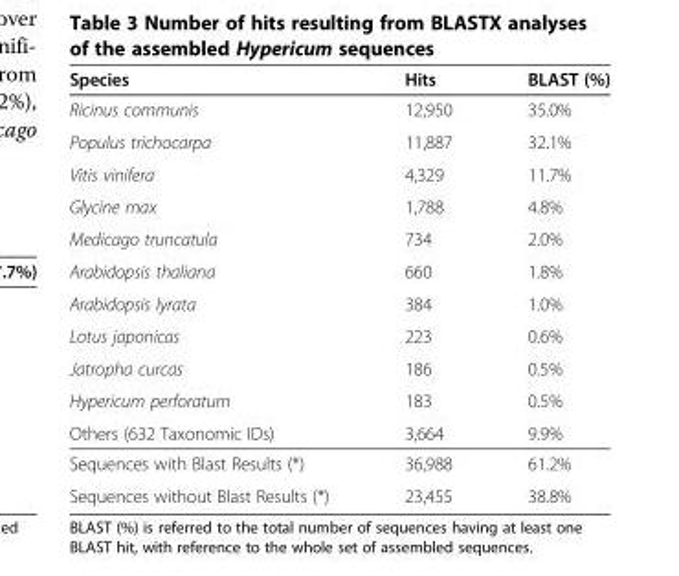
<table><thead><tr><td>Species</td><td>Hits</td><td>BLAST (%)</td></tr></thead><tbody><tr><td>Ricinus communis</td><td>12,950</td><td>35.0%</td></tr><tr><td>Populus trichocarpa</td><td>11,887</td><td>32.1%</td></tr><tr><td>Vitis vinifera</td><td>4,329</td><td>11.7%</td></tr><tr><td>Glycine max</td><td>1,788</td><td>4.8%</td></tr><tr><td>Medicago truncatula</td><td>734</td><td>2.0%</td></tr><tr><td>Arabidopsis thaliana</td><td>660</td><td>1.8%</td></tr><tr><td>Arabidopsis lyrata</td><td>384</td><td>1.0%</td></tr><tr><td>Lotus japonicas</td><td>223</td><td>0.6%</td></tr><tr><td>Jatropha curcas</td><td>186</td><td>0.5%</td></tr><tr><td>Hypericum perforatum</td><td>183</td><td>0.5%</td></tr><tr><td>Others (632 Taxonomic IDs)</td><td>3,664</td><td>9.9%</td></tr><tr><td>Sequences with Blast Results (*)</td><td>36,988</td><td>61.2%</td></tr><tr><td>Sequences without Blast Results (*)</td><td>23,455</td><td>38.8%</td></tr></tbody></table>